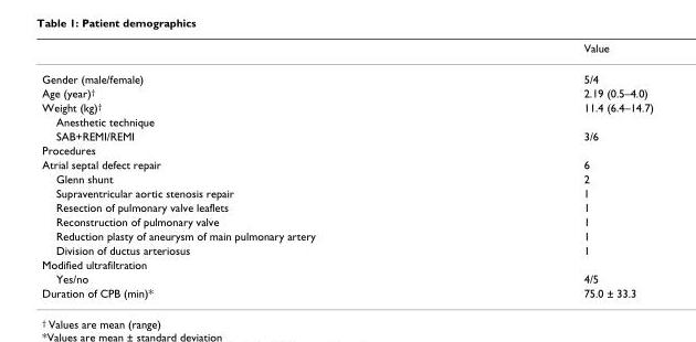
<table><thead><tr><td></td><td>Value</td></tr></thead><tbody><tr><td>Gender (male/female)</td><td>5/4</td></tr><tr><td>Age (year)<sup>†</sup></td><td>2.19 (0.5–4.0)</td></tr><tr><td>Weight (kg)<sup>†</sup></td><td>11.4 (6.4–14.7)</td></tr><tr><td colspan="2">Anesthetic technique</td></tr><tr><td>SAB+REMI/REMI</td><td>3/6</td></tr><tr><td colspan="2">Procedures</td></tr><tr><td>Atrial septal defect repair</td><td>6</td></tr><tr><td>Glenn shunt</td><td>2</td></tr><tr><td>Supraventricular aortic stenosis repair</td><td>1</td></tr><tr><td>Resection of pulmonary valve leaflets</td><td>1</td></tr><tr><td>Reconstruction of pulmonary valve</td><td>1</td></tr><tr><td>Reduction plasty of aneurysm of main pulmonary artery</td><td>1</td></tr><tr><td>Division of ductus arteriosus</td><td>1</td></tr><tr><td colspan="2">Modified ultrafiltration</td></tr><tr><td>Yes/no</td><td>4/5</td></tr><tr><td>Duration of CPB (min)*</td><td>75.0 ± 33.3</td></tr></tbody></table>